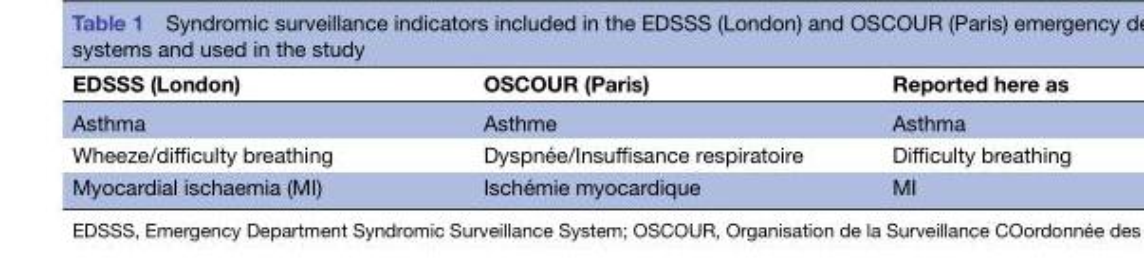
<table><thead><tr><td>EDSSS (London)</td><td>OSCOUR (Paris)</td><td>Reported here as</td></tr></thead><tbody><tr><td>Asthma</td><td>Asthme</td><td>Asthma</td></tr><tr><td>Wheeze/difficulty breathing</td><td>Dyspnée/Insuffisance respiratoire</td><td>Difficulty breathing</td></tr><tr><td>Myocardial ischaemia (MI)</td><td>Ischémie myocardique</td><td>MI</td></tr></tbody></table>